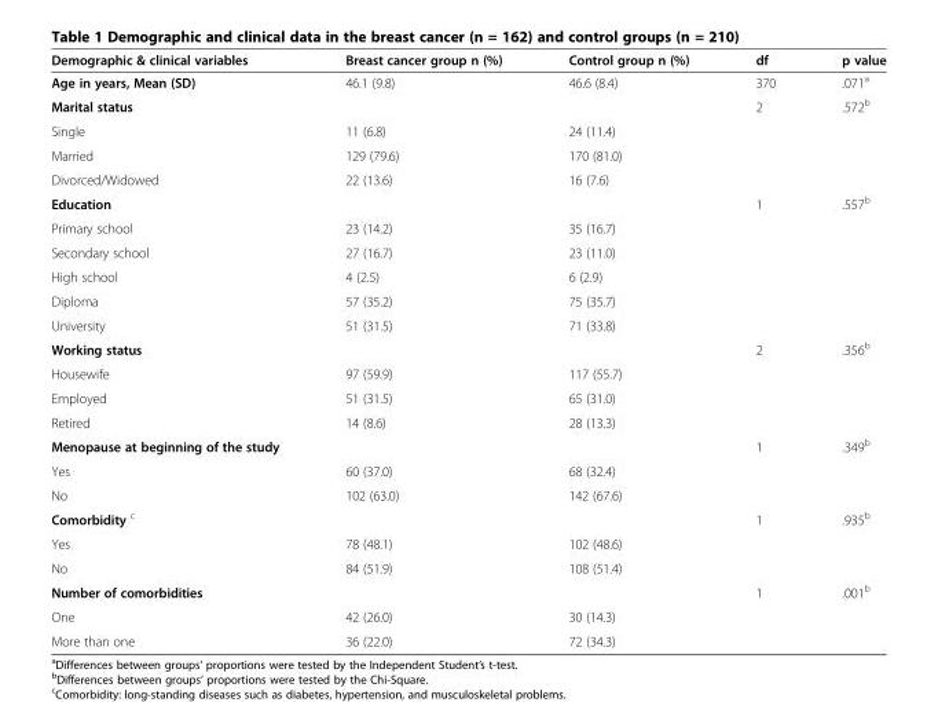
<table><thead><tr><td>Demographic &amp; clinical variables</td><td>Breast cancer group n (%)</td><td>Control group n (%)</td><td>df</td><td>p value</td></tr></thead><tbody><tr><td>Age in years, Mean (SD)</td><td>46.1 (9.8)</td><td>46.6 (8.4)</td><td>370</td><td>.071<sup>a</sup></td></tr><tr><td>Marital status</td><td></td><td></td><td>2</td><td>.572<sup>b</sup></td></tr><tr><td>Single</td><td>11 (6.8)</td><td>24 (11.4)</td><td></td><td></td></tr><tr><td>Married</td><td>129 (79.6)</td><td>170 (81.0)</td><td></td><td></td></tr><tr><td>Divorced/Widowed</td><td>22 (13.6)</td><td>16 (7.6)</td><td></td><td></td></tr><tr><td>Education</td><td></td><td></td><td>1</td><td>.557<sup>b</sup></td></tr><tr><td>Primary school</td><td>23 (14.2)</td><td>35 (16.7)</td><td></td><td></td></tr><tr><td>Secondary school</td><td>27 (16.7)</td><td>23 (11.0)</td><td></td><td></td></tr><tr><td>High school</td><td>4 (2.5)</td><td>6 (2.9)</td><td></td><td></td></tr><tr><td>Diploma</td><td>57 (35.2)</td><td>75 (35.7)</td><td></td><td></td></tr><tr><td>University</td><td>51 (31.5)</td><td>71 (33.8)</td><td></td><td></td></tr><tr><td>Working status</td><td></td><td></td><td>2</td><td>.356<sup>b</sup></td></tr><tr><td>Housewife</td><td>97 (59.9)</td><td>117 (55.7)</td><td></td><td></td></tr><tr><td>Employed</td><td>51 (31.5)</td><td>65 (31.0)</td><td></td><td></td></tr><tr><td>Retired</td><td>14 (8.6)</td><td>28 (13.3)</td><td></td><td></td></tr><tr><td>Menopause at beginning of the study</td><td></td><td></td><td>1</td><td>.349<sup>b</sup></td></tr><tr><td>Yes</td><td>60 (37.0)</td><td>68 (32.4)</td><td></td><td></td></tr><tr><td>No</td><td>102 (63.0)</td><td>142 (67.6)</td><td></td><td></td></tr><tr><td>Comorbidity <sup>c</sup></td><td></td><td></td><td>1</td><td>.935<sup>b</sup></td></tr><tr><td>Yes</td><td>78 (48.1)</td><td>102 (48.6)</td><td></td><td></td></tr><tr><td>No</td><td>84 (51.9)</td><td>108 (51.4)</td><td></td><td></td></tr><tr><td>Number of comorbidities</td><td></td><td></td><td>1</td><td>.001<sup>b</sup></td></tr><tr><td>One</td><td>42 (26.0)</td><td>30 (14.3)</td><td></td><td></td></tr><tr><td>More than one</td><td>36 (22.0)</td><td>72 (34.3)</td><td></td><td></td></tr></tbody></table>